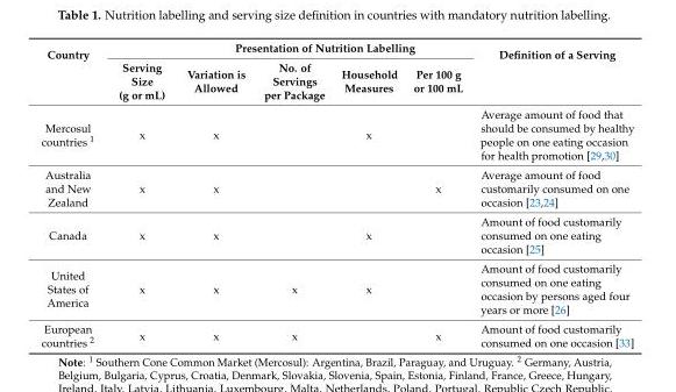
<table><thead><tr><td rowspan="2">Country</td><td rowspan="2">Serving Size (g or mL)</td><td colspan="4">Presentation of Nutrition Labelling</td><td rowspan="2">Definition of a Serving</td></tr><tr><td>Variation is Allowed</td><td>No. of Servings per Package</td><td>Household Measures</td><td>Per 100 g or 100 mL</td></tr></thead><tbody><tr><td>Mercosul countries <sup>1</sup></td><td>x</td><td>x</td><td></td><td>x</td><td></td><td>Average amount of food that should be consumed by healthy people on one eating occasion for health promotion [29,30]</td></tr><tr><td>Australia and New Zealand</td><td>x</td><td>x</td><td></td><td></td><td>x</td><td>Average amount of food customarily consumed on one occasion [23,24]</td></tr><tr><td>Canada</td><td>x</td><td>x</td><td></td><td>x</td><td></td><td>Amount of food customarily consumed on one eating occasion [25]</td></tr><tr><td>United States of America</td><td>x</td><td>x</td><td>x</td><td>x</td><td></td><td>Amount of food customarily consumed on one eating occasion by persons aged four years or more [26]</td></tr><tr><td>European countries <sup>2</sup></td><td>x</td><td>x</td><td>x</td><td></td><td>x</td><td>Amount of food customarily consumed on one occasion [33]</td></tr></tbody></table>